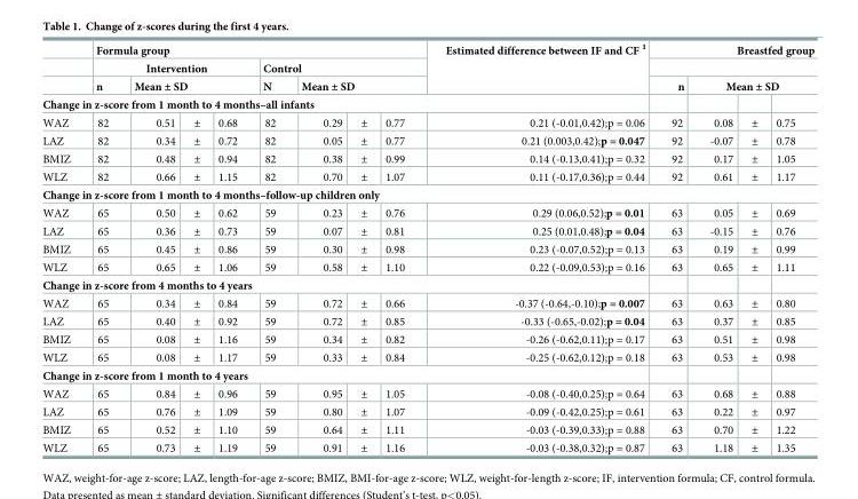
<table><thead><tr><td rowspan="3"></td><td colspan="8">Formula group</td><td rowspan="3">Estimated difference between IF and CF <sup>1</sup></td><td colspan="4">Breastfed group</td></tr><tr><td colspan="4">Intervention</td><td colspan="4">Control</td><td rowspan="4">n 92</td><td></td><td></td><td></td></tr><tr><td>n</td><td colspan="3">Mean ± SD</td><td>N</td><td colspan="3">Mean ± SD</td><td colspan="3">Mean ± SD</td></tr><tr><td colspan="10">Change in z-score from 1 month to 4 months–all infants</td><td rowspan="2">0.08</td><td rowspan="2">±</td><td rowspan="2">0.75</td></tr><tr><td>WAZ</td><td>82</td><td>0.51</td><td>±</td><td>0.68</td><td>82</td><td>0.29</td><td>±</td><td>0.77</td><td>0.21 (-0.01,0.42);p = 0.06</td></tr></thead><tbody><tr><td>LAZ</td><td>82</td><td>0.34</td><td>±</td><td>0.72</td><td>82</td><td>0.05</td><td>±</td><td>0.77</td><td>0.21 (0.003,0.42);p = 0.047</td><td>92</td><td>-0.07</td><td>±</td><td>0.78</td></tr><tr><td>BMIZ</td><td>82</td><td>0.48</td><td>±</td><td>0.94</td><td>82</td><td>0.38</td><td>±</td><td>0.99</td><td>0.14 (-0.13,0.41);p = 0.32</td><td>92</td><td>0.17</td><td>±</td><td>1.05</td></tr><tr><td>WLZ</td><td>82</td><td>0.66</td><td>±</td><td>1.15</td><td>82</td><td>0.70</td><td>±</td><td>1.07</td><td>0.11 (-0.17,0.36);p = 0.44</td><td>92</td><td>0.61</td><td>±</td><td>1.17</td></tr><tr><td colspan="14">Change in z-score from 1 month to 4 months–follow-up children only</td></tr><tr><td>WAZ</td><td>65</td><td>0.50</td><td>±</td><td>0.62</td><td>59</td><td>0.23</td><td>±</td><td>0.76</td><td>0.29 (0.06,0.52);p = 0.01</td><td>63</td><td>0.05</td><td>±</td><td>0.69</td></tr><tr><td>LAZ</td><td>65</td><td>0.36</td><td>±</td><td>0.73</td><td>59</td><td>0.07</td><td>±</td><td>0.81</td><td>0.25 (0.01,0.48);p = 0.04</td><td>63</td><td>-0.15</td><td>±</td><td>0.76</td></tr><tr><td>BMIZ</td><td>65</td><td>0.45</td><td>±</td><td>0.86</td><td>59</td><td>0.30</td><td>±</td><td>0.98</td><td>0.23 (-0.07,0.52);p = 0.13</td><td>63</td><td>0.19</td><td>±</td><td>0.99</td></tr><tr><td>WLZ</td><td>65</td><td>0.65</td><td>±</td><td>1.06</td><td>59</td><td>0.58</td><td>±</td><td>1.10</td><td>0.22 (-0.09,0.53);p = 0.16</td><td>63</td><td>0.65</td><td>±</td><td>1.11</td></tr><tr><td colspan="14">Change in z-score from 4 months to 4 years</td></tr><tr><td>WAZ</td><td>65</td><td>0.34</td><td>±</td><td>0.84</td><td>59</td><td>0.72</td><td>±</td><td>0.66</td><td>-0.37 (-0.64,-0.10);p = 0.007</td><td>63</td><td>0.63</td><td>±</td><td>0.80</td></tr><tr><td>LAZ</td><td>65</td><td>0.40</td><td>±</td><td>0.92</td><td>59</td><td>0.72</td><td>±</td><td>0.85</td><td>-0.33 (-0.65,-0.02);p = 0.04</td><td>63</td><td>0.37</td><td>±</td><td>0.85</td></tr><tr><td>BMIZ</td><td>65</td><td>0.08</td><td>±</td><td>1.16</td><td>59</td><td>0.34</td><td>±</td><td>0.82</td><td>-0.26 (-0.62,0.11);p = 0.17</td><td>63</td><td>0.51</td><td>±</td><td>0.98</td></tr><tr><td>WLZ</td><td>65</td><td>0.08</td><td>±</td><td>1.17</td><td>59</td><td>0.33</td><td>±</td><td>0.84</td><td>-0.25 (-0.62,0.12);p = 0.18</td><td>63</td><td>0.53</td><td>±</td><td>0.98</td></tr><tr><td colspan="14">Change in z-score from 1 month to 4 years</td></tr><tr><td>WAZ</td><td>65</td><td>0.84</td><td>±</td><td>0.96</td><td>59</td><td>0.95</td><td>±</td><td>1.05</td><td>-0.08 (-0.40,0.25);p = 0.64</td><td>63</td><td>0.68</td><td>±</td><td>0.88</td></tr><tr><td>LAZ</td><td>65</td><td>0.76</td><td>±</td><td>1.09</td><td>59</td><td>0.80</td><td>±</td><td>1.07</td><td>-0.09 (-0.42,0.25);p = 0.61</td><td>63</td><td>0.22</td><td>±</td><td>0.97</td></tr><tr><td>BMIZ</td><td>65</td><td>0.52</td><td>±</td><td>1.10</td><td>59</td><td>0.64</td><td>±</td><td>1.11</td><td>-0.03 (-0.39,0.33);p = 0.88</td><td>63</td><td>0.70</td><td>±</td><td>1.22</td></tr><tr><td>WLZ</td><td>65</td><td>0.73</td><td>±</td><td>1.19</td><td>59</td><td>0.91</td><td>±</td><td>1.16</td><td>-0.03 (-0.38,0.32);p = 0.87</td><td>63</td><td>1.18</td><td>±</td><td>1.35</td></tr></tbody></table>